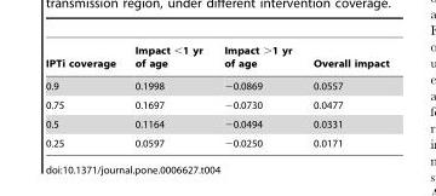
<table><thead><tr><td>IPTi coverage</td><td>Impact &lt;1 yr of age</td><td>Impact &gt;1 yr of age</td><td>Overall impact</td></tr></thead><tbody><tr><td>0.9</td><td>0.1998</td><td>−0.0869</td><td>0.0557</td></tr><tr><td>0.75</td><td>0.1697</td><td>−0.0730</td><td>0.0477</td></tr><tr><td>0.5</td><td>0.1164</td><td>−0.0494</td><td>0.0331</td></tr><tr><td>0.25</td><td>0.0597</td><td>−0.0250</td><td>0.0171</td></tr></tbody></table>